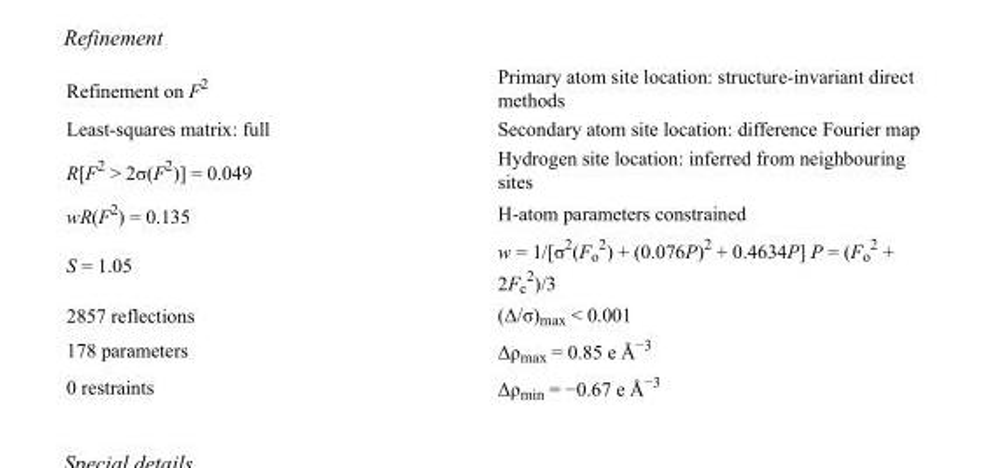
<table><tbody><tr><td>Refinement on F<sup>2</sup></td><td>Primary atom site location: structure-invariant direct methods</td></tr><tr><td>Least-squares matrix: full</td><td>Secondary atom site location: difference Fourier map</td></tr><tr><td>R[F<sup>2</sup> &gt; 2σ(F<sup>2</sup>)] = 0.049</td><td>Hydrogen site location: inferred from neighbouring sites</td></tr><tr><td>wR(F<sup>2</sup>) = 0.135</td><td>H-atom parameters constrained</td></tr><tr><td>S = 1.05</td><td>w = 1/[σ<sup>2</sup>(F<sub>o</sub> <sup>2</sup>) + (0.076P)<sup>2</sup> + 0.4634P] P = (F<sub>o</sub> <sup>2</sup> + 2F<sub>c</sub> <sup>2</sup>)/3</td></tr><tr><td>2857 reflections</td><td>(Δ/σ)<sub>max</sub> &lt; 0.001</td></tr><tr><td>178 parameters</td><td>Δρ<sub>max</sub> = 0.85 e Å<sup>−3</sup></td></tr><tr><td>0 restraints</td><td>Δρ<sub>min</sub> = −0.67 e Å<sup>−3</sup></td></tr></tbody></table>